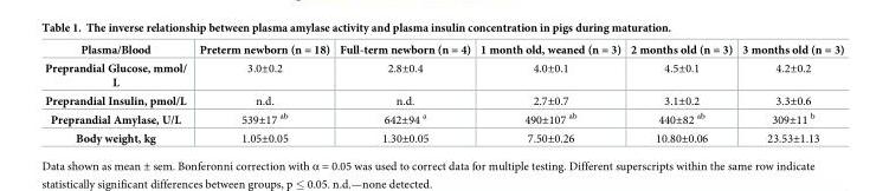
<table><thead><tr><td>Plasma/Blood</td><td>Preterm newborn (n = 18)</td><td>Full-term newborn (n = 4)</td><td>1 month old, weaned (n = 3)</td><td>2 months old (n = 3)</td><td>3 months old (n = 3)</td></tr></thead><tbody><tr><td>Preprandial Glucose, mmol/ L</td><td>3.0±0.2</td><td>2.8±0.4</td><td>4.0±0.1</td><td>4.5±0.1</td><td>4.2±0.2</td></tr><tr><td>Preprandial Insulin, pmol/L</td><td>n.d.</td><td>n.d.</td><td>2.7±0.7</td><td>3.1±0.2</td><td>3.3±0.6</td></tr><tr><td>Preprandial Amylase, U/L</td><td>539±17 <sup>ab</sup></td><td>642±94 <sup>a</sup></td><td>490±107 <sup>ab</sup></td><td>440±82 <sup>ab</sup></td><td>309±11 <sup>b</sup></td></tr><tr><td>Body weight, kg</td><td>1.05±0.05</td><td>1.30±0.05</td><td>7.50±0.26</td><td>10.80±0.06</td><td>23.53±1.13</td></tr></tbody></table>